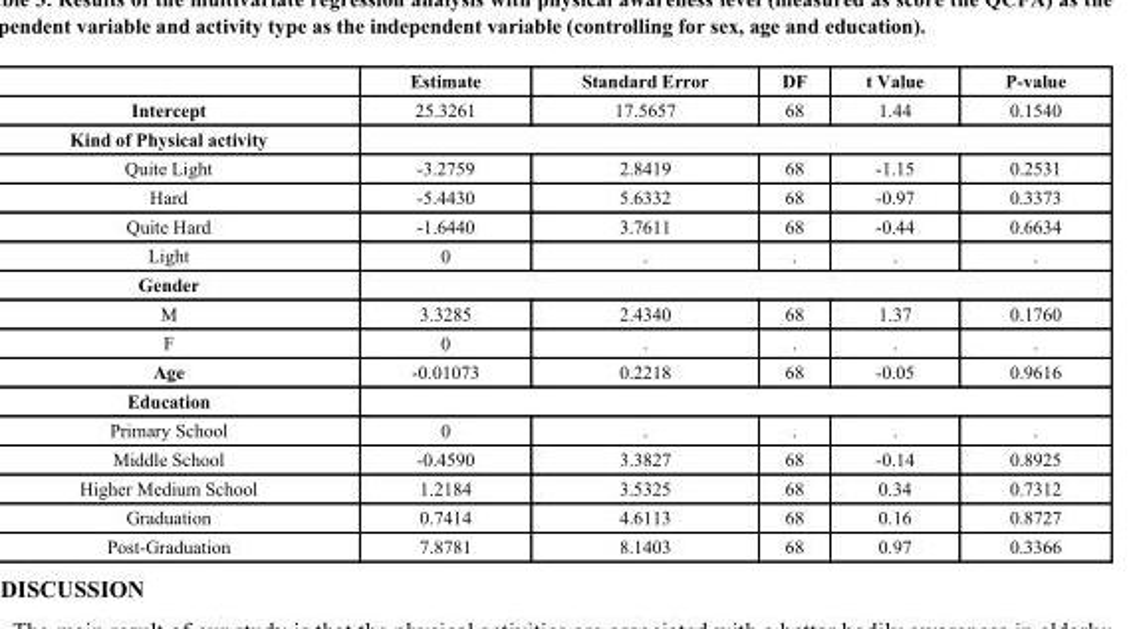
<table><thead><tr><td></td><td>Estimate</td><td>Standard Error</td><td>DF</td><td>t Value</td><td>P-value</td></tr></thead><tbody><tr><td>Intercept</td><td>25.3261</td><td>17.5657</td><td>68</td><td>1.44</td><td>0.1540</td></tr><tr><td colspan="6">Kind of Physical activity</td></tr><tr><td>Quite Light</td><td>-3.2759</td><td>2.8419</td><td>68</td><td>-1.15</td><td>0.2531</td></tr><tr><td>Hard</td><td>-5.4430</td><td>5.6332</td><td>68</td><td>-0.97</td><td>0.3373</td></tr><tr><td>Quite Hard</td><td>-1.6440</td><td>3.7611</td><td>68</td><td>-0.44</td><td>0.6634</td></tr><tr><td>Light</td><td>0</td><td>.</td><td>.</td><td>.</td><td>.</td></tr><tr><td colspan="6">Gender</td></tr><tr><td>M</td><td>3.3285</td><td>2.4340</td><td>68</td><td>1.37</td><td>0.1760</td></tr><tr><td>F</td><td>0</td><td>.</td><td>.</td><td>.</td><td>.</td></tr><tr><td>Age</td><td>-0.01073</td><td>0.2218</td><td>68</td><td>-0.05</td><td>0.9616</td></tr><tr><td colspan="6">Education</td></tr><tr><td>Primary School</td><td>0</td><td>.</td><td>.</td><td>.</td><td>.</td></tr><tr><td>Middle School</td><td>-0.4590</td><td>3.3827</td><td>68</td><td>-0.14</td><td>0.8925</td></tr><tr><td>Higher Medium School</td><td>1.2184</td><td>3.5325</td><td>68</td><td>0.34</td><td>0.7312</td></tr><tr><td>Graduation</td><td>0.7414</td><td>4.6113</td><td>68</td><td>0.16</td><td>0.8727</td></tr><tr><td>Post-Graduation</td><td>7.8781</td><td>8.1403</td><td>68</td><td>0.97</td><td>0.3366</td></tr></tbody></table>